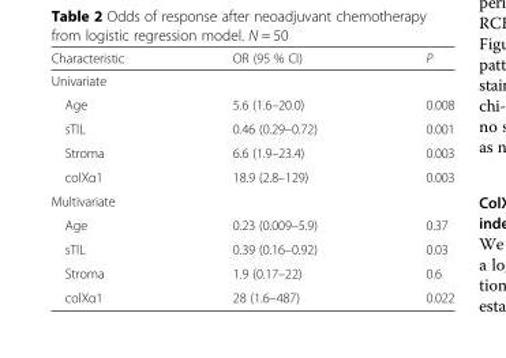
<table><thead><tr><td>Characteristic</td><td>OR (95 % CI)</td><td>P</td></tr></thead><tbody><tr><td colspan="3">Univariate</td></tr><tr><td>Age</td><td>5.6 (1.6–20.0)</td><td>0.008</td></tr><tr><td>sTIL</td><td>0.46 (0.29–0.72)</td><td>0.001</td></tr><tr><td>Stroma</td><td>6.6 (1.9–23.4)</td><td>0.003</td></tr><tr><td>colXα1</td><td>18.9 (2.8–129)</td><td>0.003</td></tr><tr><td colspan="3">Multivariate</td></tr><tr><td>Age</td><td>0.23 (0.009–5.9)</td><td>0.37</td></tr><tr><td>sTIL</td><td>0.39 (0.16–0.92)</td><td>0.03</td></tr><tr><td>Stroma</td><td>1.9 (0.17–22)</td><td>0.6</td></tr><tr><td>colXα1</td><td>28 (1.6–487)</td><td>0.022</td></tr></tbody></table>